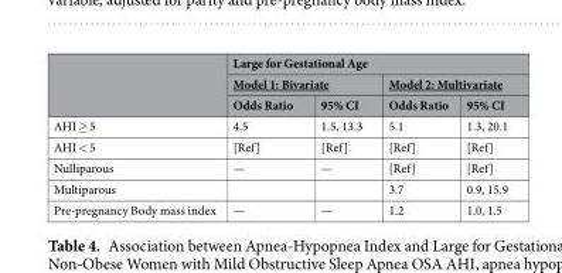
<table><thead><tr><td rowspan="3"></td><td colspan="4">Large for Gestational Age</td></tr><tr><td colspan="2">Model 1: Bivariate</td><td colspan="2">Model 2: Multivariate</td></tr><tr><td>Odds Ratio</td><td>95% CI</td><td>Odds Ratio</td><td>95% CI</td></tr></thead><tbody><tr><td>AHI ≥ 5</td><td>4.5</td><td>1.5, 13.3</td><td>5.1</td><td>1.3, 20.1</td></tr><tr><td>AHI &lt; 5</td><td>[Ref]</td><td>[Ref]</td><td>[Ref]</td><td>[Ref]</td></tr><tr><td>Nulliparous</td><td>—</td><td>—</td><td>[Ref]</td><td>[Ref]</td></tr><tr><td>Multiparous</td><td></td><td></td><td>3.7</td><td>0.9, 15.9</td></tr><tr><td>Pre-pregnancy Body mass index</td><td>—</td><td>—</td><td>1.2</td><td>1.0, 1.5</td></tr></tbody></table>